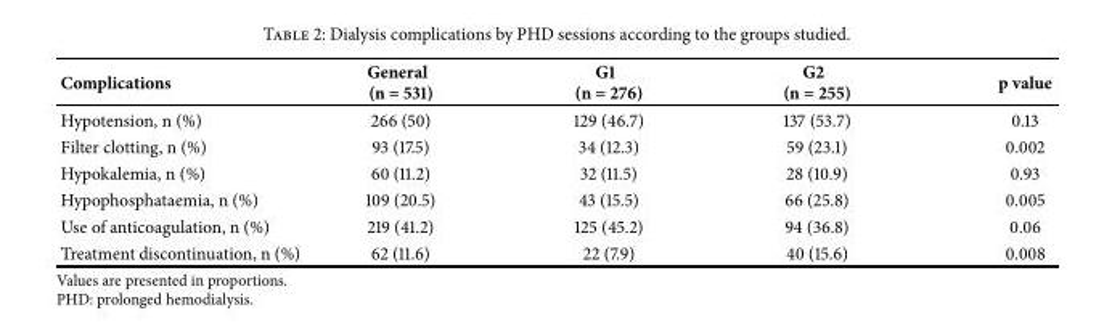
<table><thead><tr><td>Complications</td><td>General (n = 531)</td><td>G1 (n = 276)</td><td>G2 (n = 255)</td><td>p value</td></tr></thead><tbody><tr><td>Hypotension, n (%)</td><td>266 (50)</td><td>129 (46.7)</td><td>137 (53.7)</td><td>0.13</td></tr><tr><td>Filter clotting, n (%)</td><td>93 (17.5)</td><td>34 (12.3)</td><td>59 (23.1)</td><td>0.002</td></tr><tr><td>Hypokalemia, n (%)</td><td>60 (11.2)</td><td>32 (11.5)</td><td>28 (10.9)</td><td>0.93</td></tr><tr><td>Hypophosphataemia, n (%)</td><td>109 (20.5)</td><td>43 (15.5)</td><td>66 (25.8)</td><td>0.005</td></tr><tr><td>Use of anticoagulation, n (%)</td><td>219 (41.2)</td><td>125 (45.2)</td><td>94 (36.8)</td><td>0.06</td></tr><tr><td>Treatment discontinuation, n (%)</td><td>62 (11.6)</td><td>22 (7.9)</td><td>40 (15.6)</td><td>0.008</td></tr></tbody></table>